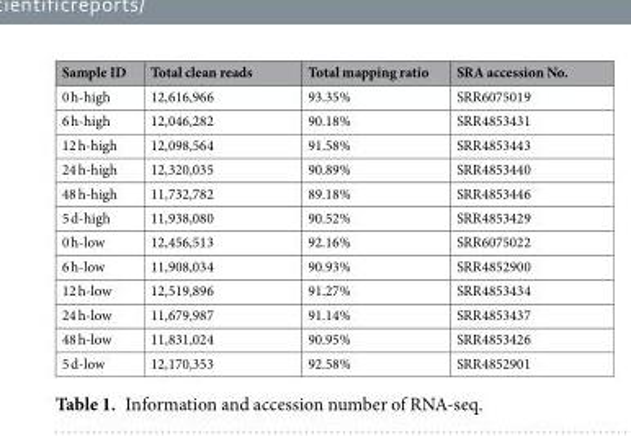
<table><thead><tr><td>Sample ID</td><td>Total clean reads</td><td>Total mapping ratio</td><td>SRA accession No.</td></tr></thead><tbody><tr><td>0 h-high</td><td>12,616,966</td><td>93.35%</td><td>SRR6075019</td></tr><tr><td>6 h-high</td><td>12,046,282</td><td>90.18%</td><td>SRR4853431</td></tr><tr><td>12 h-high</td><td>12,098,564</td><td>91.58%</td><td>SRR4853443</td></tr><tr><td>24 h-high</td><td>12,320,035</td><td>90.89%</td><td>SRR4853440</td></tr><tr><td>48 h-high</td><td>11,732,782</td><td>89.18%</td><td>SRR4853446</td></tr><tr><td>5 d-high</td><td>11,938,080</td><td>90.52%</td><td>SRR4853429</td></tr><tr><td>0 h-low</td><td>12,456,513</td><td>92.16%</td><td>SRR6075022</td></tr><tr><td>6 h-low</td><td>11,908,034</td><td>90.93%</td><td>SRR4852900</td></tr><tr><td>12 h-low</td><td>12,519,896</td><td>91.27%</td><td>SRR4853434</td></tr><tr><td>24 h-low</td><td>11,679,987</td><td>91.14%</td><td>SRR4853437</td></tr><tr><td>48 h-low</td><td>11,831,024</td><td>90.95%</td><td>SRR4853426</td></tr><tr><td>5 d-low</td><td>12,170,353</td><td>92.58%</td><td>SRR4852901</td></tr></tbody></table>